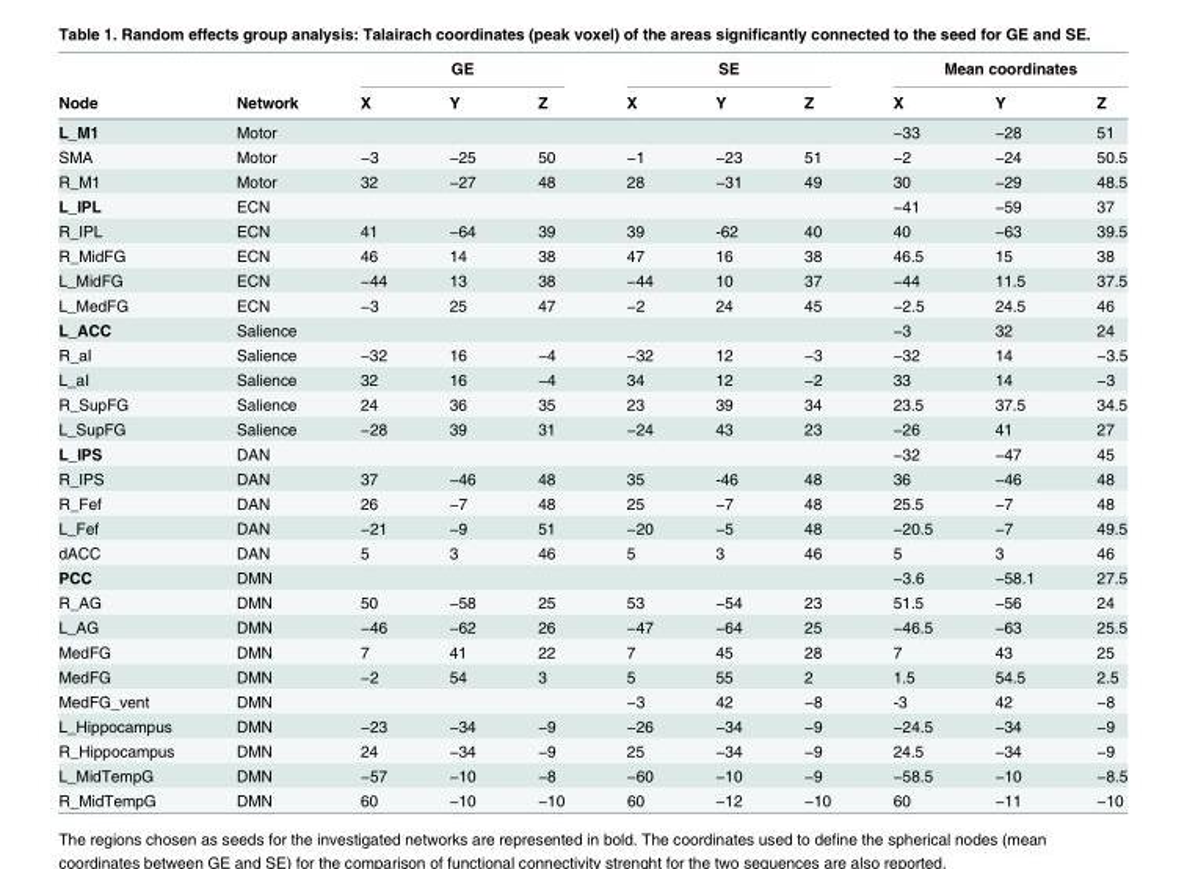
<table><thead><tr><td rowspan="2">Node</td><td rowspan="2">Network</td><td colspan="3">GE</td><td colspan="3">SE</td><td colspan="3">Mean coordinates</td></tr><tr><td>X</td><td>Y</td><td>Z</td><td>X</td><td>Y</td><td>Z</td><td>X</td><td>Y</td><td>Z</td></tr></thead><tbody><tr><td>L_M1</td><td>Motor</td><td></td><td></td><td></td><td></td><td></td><td></td><td>−33</td><td>−28</td><td>51</td></tr><tr><td>SMA</td><td>Motor</td><td>−3</td><td>−25</td><td>50</td><td>−1</td><td>−23</td><td>51</td><td>−2</td><td>−24</td><td>50.5</td></tr><tr><td>R_M1</td><td>Motor</td><td>32</td><td>−27</td><td>48</td><td>28</td><td>−31</td><td>49</td><td>30</td><td>−29</td><td>48.5</td></tr><tr><td>L_IPL</td><td>ECN</td><td></td><td></td><td></td><td></td><td></td><td></td><td>−41</td><td>−59</td><td>37</td></tr><tr><td>R_IPL</td><td>ECN</td><td>41</td><td>−64</td><td>39</td><td>39</td><td>-62</td><td>40</td><td>40</td><td>−63</td><td>39.5</td></tr><tr><td>R_MidFG</td><td>ECN</td><td>46</td><td>14</td><td>38</td><td>47</td><td>16</td><td>38</td><td>46.5</td><td>15</td><td>38</td></tr><tr><td>L_MidFG</td><td>ECN</td><td>−44</td><td>13</td><td>38</td><td>−44</td><td>10</td><td>37</td><td>−44</td><td>11.5</td><td>37.5</td></tr><tr><td>L_MedFG</td><td>ECN</td><td>−3</td><td>25</td><td>47</td><td>−2</td><td>24</td><td>45</td><td>−2.5</td><td>24.5</td><td>46</td></tr><tr><td>L_ACC</td><td>Salience</td><td></td><td></td><td></td><td></td><td></td><td></td><td>−3</td><td>32</td><td>24</td></tr><tr><td>R_aI</td><td>Salience</td><td>−32</td><td>16</td><td>−4</td><td>−32</td><td>12</td><td>−3</td><td>−32</td><td>14</td><td>−3.5</td></tr><tr><td>L_aI</td><td>Salience</td><td>32</td><td>16</td><td>−4</td><td>34</td><td>12</td><td>−2</td><td>33</td><td>14</td><td>−3</td></tr><tr><td>R_SupFG</td><td>Salience</td><td>24</td><td>36</td><td>35</td><td>23</td><td>39</td><td>34</td><td>23.5</td><td>37.5</td><td>34.5</td></tr><tr><td>L_SupFG</td><td>Salience</td><td>−28</td><td>39</td><td>31</td><td>−24</td><td>43</td><td>23</td><td>−26</td><td>41</td><td>27</td></tr><tr><td>L_IPS</td><td>DAN</td><td></td><td></td><td></td><td></td><td></td><td></td><td>−32</td><td>−47</td><td>45</td></tr><tr><td>R_IPS</td><td>DAN</td><td>37</td><td>−46</td><td>48</td><td>35</td><td>-46</td><td>48</td><td>36</td><td>−46</td><td>48</td></tr><tr><td>R_Fef</td><td>DAN</td><td>26</td><td>−7</td><td>48</td><td>25</td><td>−7</td><td>48</td><td>25.5</td><td>−7</td><td>48</td></tr><tr><td>L_Fef</td><td>DAN</td><td>−21</td><td>−9</td><td>51</td><td>−20</td><td>−5</td><td>48</td><td>−20.5</td><td>−7</td><td>49.5</td></tr><tr><td>dACC</td><td>DAN</td><td>5</td><td>3</td><td>46</td><td>5</td><td>3</td><td>46</td><td>5</td><td>3</td><td>46</td></tr><tr><td>PCC</td><td>DMN</td><td></td><td></td><td></td><td></td><td></td><td></td><td>−3.6</td><td>−58.1</td><td>27.5</td></tr><tr><td>R_AG</td><td>DMN</td><td>50</td><td>−58</td><td>25</td><td>53</td><td>−54</td><td>23</td><td>51.5</td><td>−56</td><td>24</td></tr><tr><td>L_AG</td><td>DMN</td><td>−46</td><td>−62</td><td>26</td><td>−47</td><td>−64</td><td>25</td><td>−46.5</td><td>−63</td><td>25.5</td></tr><tr><td>MedFG</td><td>DMN</td><td>7</td><td>41</td><td>22</td><td>7</td><td>45</td><td>28</td><td>7</td><td>43</td><td>25</td></tr><tr><td>MedFG</td><td>DMN</td><td>−2</td><td>54</td><td>3</td><td>5</td><td>55</td><td>2</td><td>1.5</td><td>54.5</td><td>2.5</td></tr><tr><td>MedFG_vent</td><td>DMN</td><td></td><td></td><td></td><td>−3</td><td>42</td><td>−8</td><td>-3</td><td>42</td><td>−8</td></tr><tr><td>L_Hippocampus</td><td>DMN</td><td>−23</td><td>−34</td><td>−9</td><td>−26</td><td>−34</td><td>−9</td><td>−24.5</td><td>−34</td><td>−9</td></tr><tr><td>R_Hippocampus</td><td>DMN</td><td>24</td><td>−34</td><td>−9</td><td>25</td><td>−34</td><td>−9</td><td>24.5</td><td>−34</td><td>−9</td></tr><tr><td>L_MidTempG</td><td>DMN</td><td>−57</td><td>−10</td><td>−8</td><td>−60</td><td>−10</td><td>−9</td><td>−58.5</td><td>−10</td><td>−8.5</td></tr><tr><td>R_MidTempG</td><td>DMN</td><td>60</td><td>−10</td><td>−10</td><td>60</td><td>−12</td><td>−10</td><td>60</td><td>−11</td><td>−10</td></tr></tbody></table>